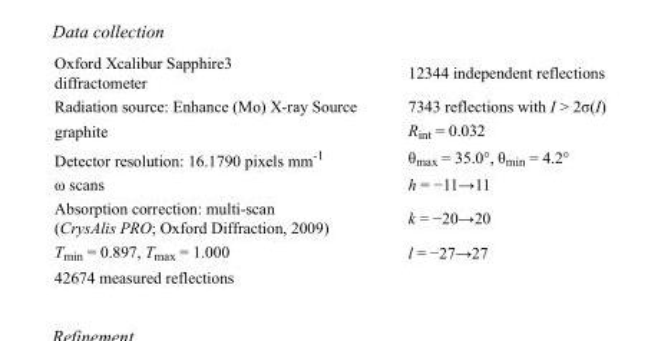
<table><tbody><tr><td>Oxford Xcalibur Sapphire3 diffractometer</td><td>12344 independent reflections</td></tr><tr><td>Radiation source: Enhance (Mo) X-ray Source</td><td>7343 reflections with I &gt; 2σ(I)</td></tr><tr><td>graphite</td><td>R<sub>int</sub> = 0.032</td></tr><tr><td>Detector resolution: 16.1790 pixels mm<sup>-1</sup></td><td>θ<sub>max</sub> = 35.0°, θ<sub>min</sub> = 4.2°</td></tr><tr><td>ω scans</td><td>h = −11→11</td></tr><tr><td>Absorption correction: multi-scan (CrysAlis PRO; Oxford Diffraction, 2009)</td><td>k = −20→20</td></tr><tr><td>T<sub>min</sub> = 0.897, T<sub>max</sub> = 1.000</td><td>l = −27→27</td></tr><tr><td>42674 measured reflections</td><td></td></tr></tbody></table>